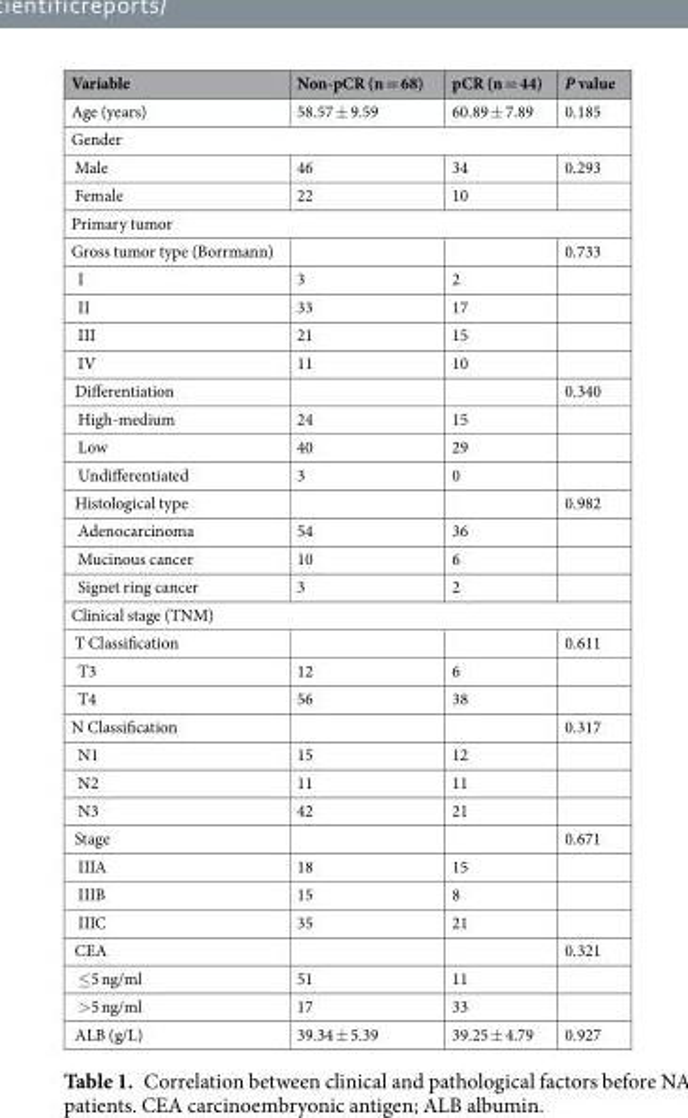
<table><thead><tr><td>Variable</td><td>Non-pCR (n = 68)</td><td>pCR (n = 44)</td><td>P value</td></tr></thead><tbody><tr><td>Age (years)</td><td>58.57 ± 9.59</td><td>60.89 ± 7.89</td><td>0.185</td></tr><tr><td colspan="4">Gender</td></tr><tr><td>Male</td><td>46</td><td>34</td><td>0.293</td></tr><tr><td>Female</td><td>22</td><td>10</td><td></td></tr><tr><td colspan="4">Primary tumor</td></tr><tr><td>Gross tumor type (Borrmann)</td><td></td><td></td><td>0.733</td></tr><tr><td>I</td><td>3</td><td>2</td><td></td></tr><tr><td>II</td><td>33</td><td>17</td><td></td></tr><tr><td>III</td><td>21</td><td>15</td><td></td></tr><tr><td>IV</td><td>11</td><td>10</td><td></td></tr><tr><td>Differentiation</td><td></td><td></td><td>0.340</td></tr><tr><td>High-medium</td><td>24</td><td>15</td><td></td></tr><tr><td>Low</td><td>40</td><td>29</td><td></td></tr><tr><td>Undifferentiated</td><td>3</td><td>0</td><td></td></tr><tr><td>Histological type</td><td></td><td></td><td>0.982</td></tr><tr><td>Adenocarcinoma</td><td>54</td><td>36</td><td></td></tr><tr><td>Mucinous cancer</td><td>10</td><td>6</td><td></td></tr><tr><td>Signet ring cancer</td><td>3</td><td>2</td><td></td></tr><tr><td colspan="4">Clinical stage (TNM)</td></tr><tr><td>T Classification</td><td></td><td></td><td>0.611</td></tr><tr><td>T3</td><td>12</td><td>6</td><td></td></tr><tr><td>T4</td><td>56</td><td>38</td><td></td></tr><tr><td>N Classification</td><td></td><td></td><td>0.317</td></tr><tr><td>N1</td><td>15</td><td>12</td><td></td></tr><tr><td>N2</td><td>11</td><td>11</td><td></td></tr><tr><td>N3</td><td>42</td><td>21</td><td></td></tr><tr><td>Stage</td><td></td><td></td><td>0.671</td></tr><tr><td>IIIA</td><td>18</td><td>15</td><td></td></tr><tr><td>IIIB</td><td>15</td><td>8</td><td></td></tr><tr><td>IIIC</td><td>35</td><td>21</td><td></td></tr><tr><td>CEA</td><td></td><td></td><td>0.321</td></tr><tr><td>≤5 ng/ml</td><td>51</td><td>11</td><td></td></tr><tr><td>&gt;5 ng/ml</td><td>17</td><td>33</td><td></td></tr><tr><td>ALB (g/L)</td><td>39.34 ± 5.39</td><td>39.25 ± 4.79</td><td>0.927</td></tr></tbody></table>